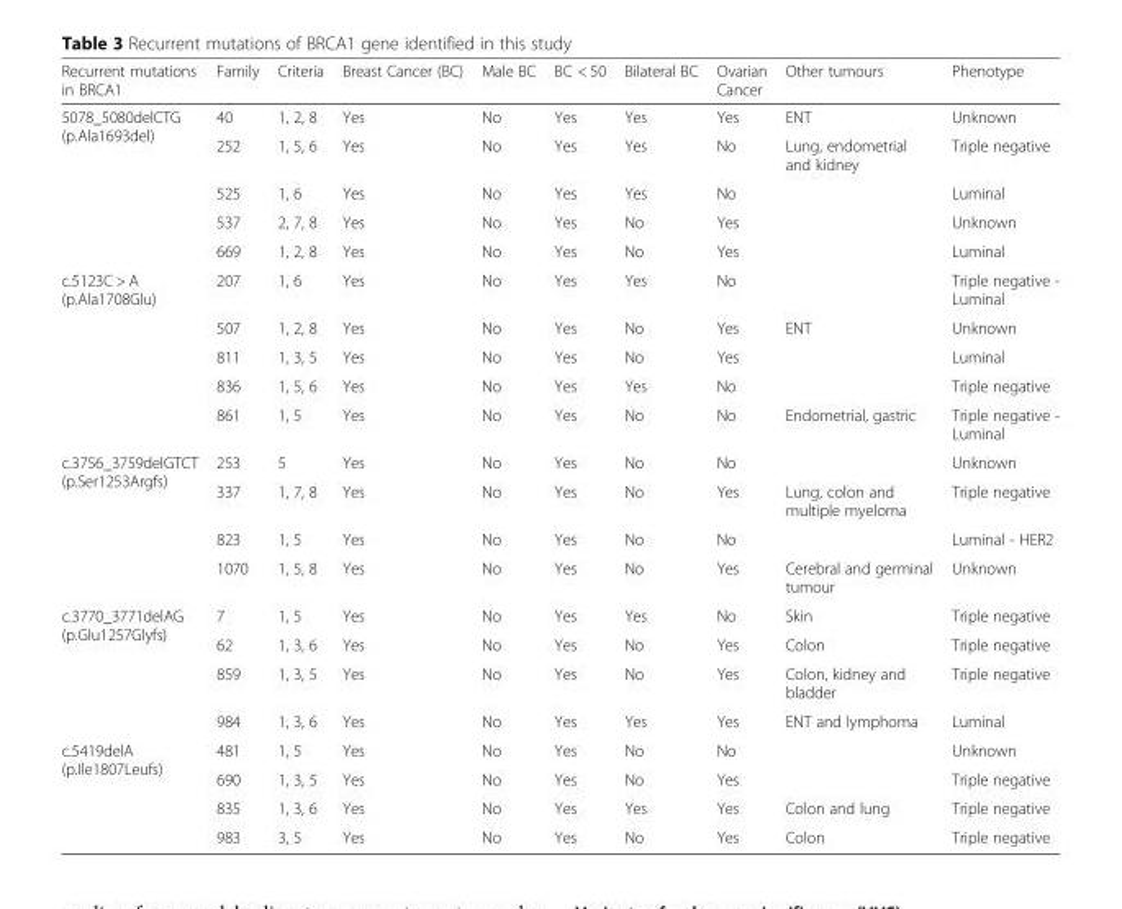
<table><thead><tr><td>Recurrent mutations in BRCA1</td><td>Family</td><td>Criteria</td><td>Breast Cancer (BC)</td><td>Male BC</td><td>BC &lt; 50</td><td>Bilateral BC</td><td>Ovarian Cancer</td><td>Other tumours</td><td>Phenotype</td></tr></thead><tbody><tr><td rowspan="5">5078_5080delCTG (p.Ala1693del)</td><td>40</td><td>1, 2, 8</td><td>Yes</td><td>No</td><td>Yes</td><td>Yes</td><td>Yes</td><td>ENT</td><td>Unknown</td></tr><tr><td>252</td><td>1, 5, 6</td><td>Yes</td><td>No</td><td>Yes</td><td>Yes</td><td>No</td><td>Lung, endometrial and kidney</td><td>Triple negative</td></tr><tr><td>525</td><td>1, 6</td><td>Yes</td><td>No</td><td>Yes</td><td>Yes</td><td>No</td><td></td><td>Luminal</td></tr><tr><td>537</td><td>2, 7, 8</td><td>Yes</td><td>No</td><td>Yes</td><td>No</td><td>Yes</td><td></td><td>Unknown</td></tr><tr><td>669</td><td>1, 2, 8</td><td>Yes</td><td>No</td><td>Yes</td><td>No</td><td>Yes</td><td></td><td>Luminal</td></tr><tr><td rowspan="5">c.5123C &gt; A (p.Ala1708Glu)</td><td>207</td><td>1, 6</td><td>Yes</td><td>No</td><td>Yes</td><td>Yes</td><td>No</td><td></td><td>Triple negative - Luminal</td></tr><tr><td>507</td><td>1, 2, 8</td><td>Yes</td><td>No</td><td>Yes</td><td>No</td><td>Yes</td><td>ENT</td><td>Unknown</td></tr><tr><td>811</td><td>1, 3, 5</td><td>Yes</td><td>No</td><td>Yes</td><td>No</td><td>Yes</td><td></td><td>Luminal</td></tr><tr><td>836</td><td>1, 5, 6</td><td>Yes</td><td>No</td><td>Yes</td><td>Yes</td><td>No</td><td></td><td>Triple negative</td></tr><tr><td>861</td><td>1, 5</td><td>Yes</td><td>No</td><td>Yes</td><td>No</td><td>No</td><td>Endometrial, gastric</td><td>Triple negative - Luminal</td></tr><tr><td rowspan="4">c.3756_3759delGTCT (p.Ser1253Argfs)</td><td>253</td><td>5</td><td>Yes</td><td>No</td><td>Yes</td><td>No</td><td>No</td><td></td><td>Unknown</td></tr><tr><td>337</td><td>1, 7, 8</td><td>Yes</td><td>No</td><td>Yes</td><td>No</td><td>Yes</td><td>Lung, colon and multiple myeloma</td><td>Triple negative</td></tr><tr><td>823</td><td>1, 5</td><td>Yes</td><td>No</td><td>Yes</td><td>No</td><td>No</td><td></td><td>Luminal - HER2</td></tr><tr><td>1070</td><td>1, 5, 8</td><td>Yes</td><td>No</td><td>Yes</td><td>No</td><td>Yes</td><td>Cerebral and germinal tumour</td><td>Unknown</td></tr><tr><td rowspan="4">c.3770_3771delAG (p.Glu1257Glyfs)</td><td>7</td><td>1, 5</td><td>Yes</td><td>No</td><td>Yes</td><td>Yes</td><td>No</td><td>Skin</td><td>Triple negative</td></tr><tr><td>62</td><td>1, 3, 6</td><td>Yes</td><td>No</td><td>Yes</td><td>No</td><td>Yes</td><td>Colon</td><td>Triple negative</td></tr><tr><td>859</td><td>1, 3, 5</td><td>Yes</td><td>No</td><td>Yes</td><td>No</td><td>Yes</td><td>Colon, kidney and bladder</td><td>Triple negative</td></tr><tr><td>984</td><td>1, 3, 6</td><td>Yes</td><td>No</td><td>Yes</td><td>Yes</td><td>Yes</td><td>ENT and lymphoma</td><td>Luminal</td></tr><tr><td rowspan="4">c.5419delA (p.Ile1807Leufs)</td><td>481</td><td>1, 5</td><td>Yes</td><td>No</td><td>Yes</td><td>No</td><td>No</td><td></td><td>Unknown</td></tr><tr><td>690</td><td>1, 3, 5</td><td>Yes</td><td>No</td><td>Yes</td><td>No</td><td>Yes</td><td></td><td>Triple negative</td></tr><tr><td>835</td><td>1, 3, 6</td><td>Yes</td><td>No</td><td>Yes</td><td>Yes</td><td>Yes</td><td>Colon and lung</td><td>Triple negative</td></tr><tr><td>983</td><td>3, 5</td><td>Yes</td><td>No</td><td>Yes</td><td>No</td><td>Yes</td><td>Colon</td><td>Triple negative</td></tr></tbody></table>